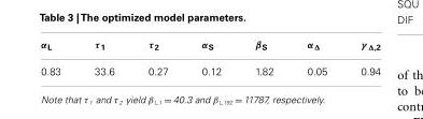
<table><thead><tr><td>α<sub>L</sub></td><td>τ <sub>1</sub></td><td>τ <sub>2</sub></td><td>α<sub>S</sub></td><td>β<sub>S</sub></td><td>α<sub>Δ</sub></td><td>γ <sub>Δ,2</sub></td></tr></thead><tbody><tr><td>0.83</td><td>33.6</td><td>0.27</td><td>0.12</td><td>1.82</td><td>0.05</td><td>0.94</td></tr></tbody></table>